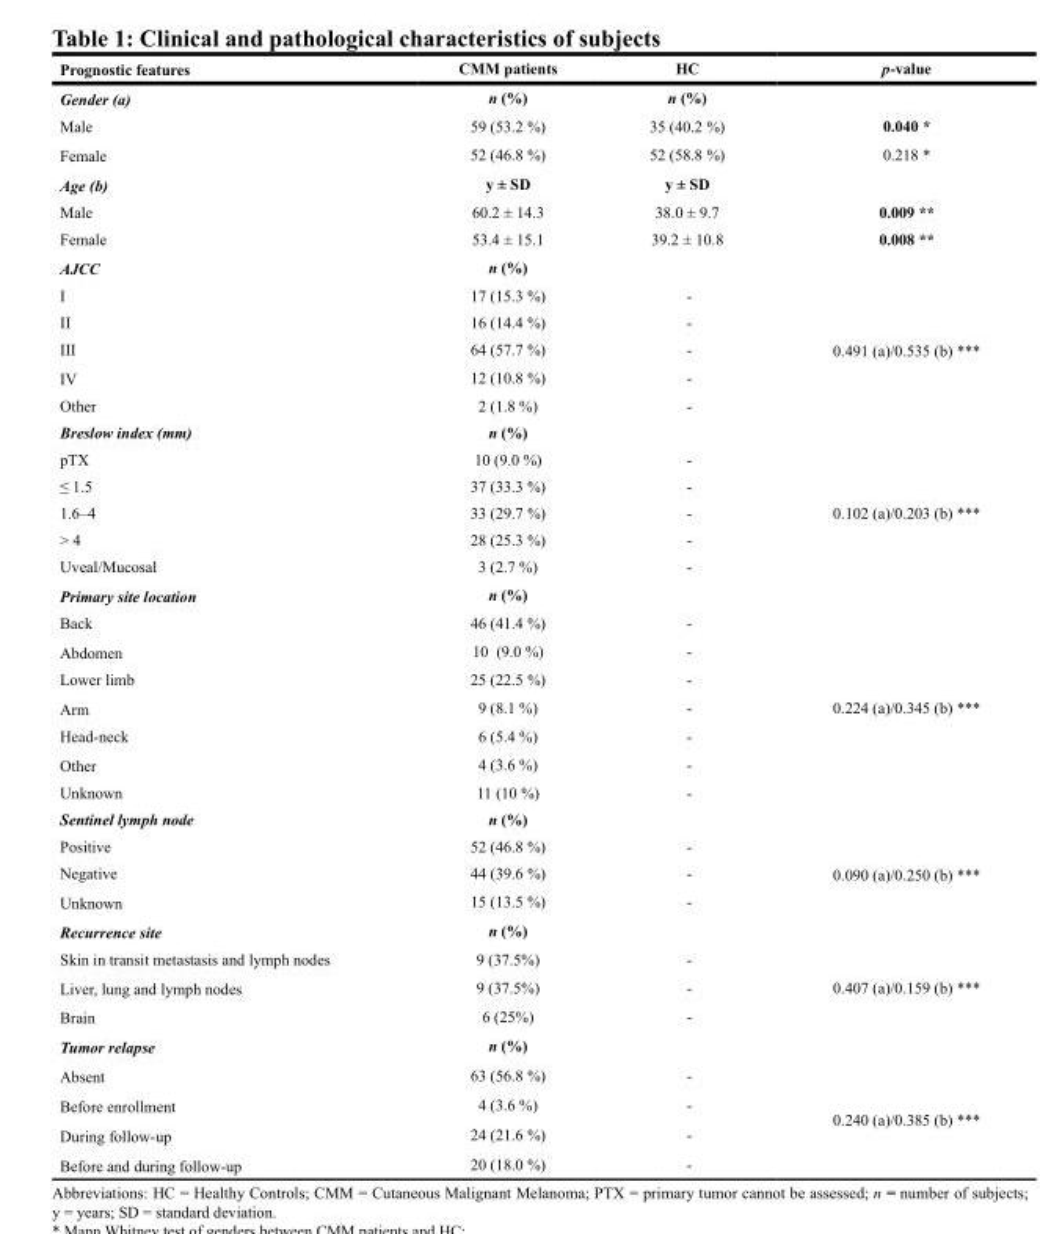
<table><thead><tr><td>Prognostic features</td><td>CMM patients</td><td>HC</td><td>p-value</td></tr></thead><tbody><tr><td>Gender (a)</td><td>n (%)</td><td>n (%)</td><td></td></tr><tr><td>Male</td><td>59 (53.2 %)</td><td>35 (40.2 %)</td><td>0.040 *</td></tr><tr><td>Female</td><td>52 (46.8 %)</td><td>52 (58.8 %)</td><td>0.218 *</td></tr><tr><td>Age (b)</td><td>y ± SD</td><td>y ± SD</td><td></td></tr><tr><td>Male</td><td>60.2 ± 14.3</td><td>38.0 ± 9.7</td><td>0.009 **</td></tr><tr><td>Female</td><td>53.4 ± 15.1</td><td>39.2 ± 10.8</td><td>0.008 **</td></tr><tr><td>AJCC</td><td>n (%)</td><td></td><td></td></tr><tr><td>I</td><td>17 (15.3 %)</td><td>-</td><td rowspan="5">0.491 (a)/0.535 (b) ***</td></tr><tr><td>II</td><td>16 (14.4 %)</td><td>-</td></tr><tr><td>III</td><td>64 (57.7 %)</td><td>-</td></tr><tr><td>IV</td><td>12 (10.8 %)</td><td>-</td></tr><tr><td>Other</td><td>2 (1.8 %)</td><td>-</td></tr><tr><td>Breslow index (mm)</td><td>n (%)</td><td></td><td></td></tr><tr><td>pTX</td><td>10 (9.0 %)</td><td>-</td><td rowspan="5">0.102 (a)/0.203 (b) ***</td></tr><tr><td>≤ 1.5</td><td>37 (33.3 %)</td><td>-</td></tr><tr><td>1.6–4</td><td>33 (29.7 %)</td><td>-</td></tr><tr><td>&gt; 4</td><td>28 (25.3 %)</td><td>-</td></tr><tr><td>Uveal/Mucosal</td><td>3 (2.7 %)</td><td>-</td></tr><tr><td>Primary site location</td><td>n (%)</td><td></td><td></td></tr><tr><td>Back</td><td>46 (41.4 %)</td><td>-</td><td rowspan="7">0.224 (a)/0.345 (b) ***</td></tr><tr><td>Abdomen</td><td>10 (9.0 %)</td><td>-</td></tr><tr><td>Lower limb</td><td>25 (22.5 %)</td><td>-</td></tr><tr><td>Arm</td><td>9 (8.1 %)</td><td>-</td></tr><tr><td>Head-neck</td><td>6 (5.4 %)</td><td>-</td></tr><tr><td>Other</td><td>4 (3.6 %)</td><td>-</td></tr><tr><td>Unknown</td><td>11 (10 %)</td><td>-</td></tr><tr><td>Sentinel lymph node</td><td>n (%)</td><td></td><td></td></tr><tr><td>Positive</td><td>52 (46.8 %)</td><td>-</td><td rowspan="3">0.090 (a)/0.250 (b) ***</td></tr><tr><td>Negative</td><td>44 (39.6 %)</td><td>-</td></tr><tr><td>Unknown</td><td>15 (13.5 %)</td><td>-</td></tr><tr><td>Recurrence site</td><td>n (%)</td><td></td><td></td></tr><tr><td>Skin in transit metastasis and lymph nodes</td><td>9 (37.5%)</td><td>-</td><td></td></tr><tr><td>Liver, lung and lymph nodes</td><td>9 (37.5%)</td><td>-</td><td>0.407 (a)/0.159 (b) ***</td></tr><tr><td>Brain</td><td>6 (25%)</td><td>-</td><td></td></tr><tr><td>Tumor relapse</td><td>n (%)</td><td></td><td></td></tr><tr><td>Absent</td><td>63 (56.8 %)</td><td>-</td><td rowspan="4">0.240 (a)/0.385 (b) ***</td></tr><tr><td>Before enrollment</td><td>4 (3.6 %)</td><td>-</td></tr><tr><td>During follow-up</td><td>24 (21.6 %)</td><td>-</td></tr><tr><td>Before and during follow-up</td><td>20 (18.0 %)</td><td>-</td></tr></tbody></table>